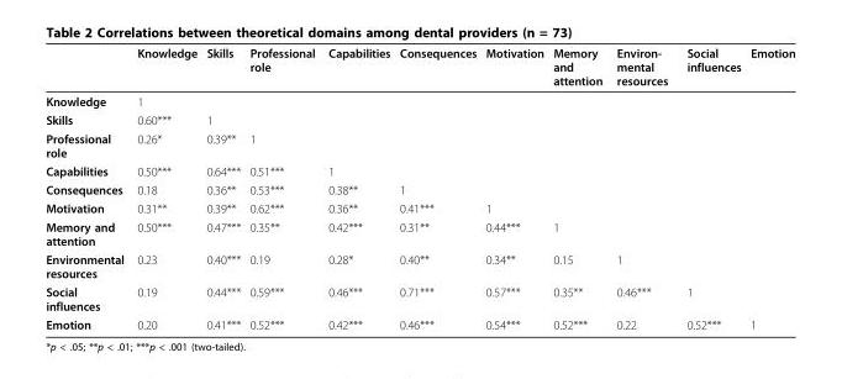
<table><thead><tr><td></td><td>Knowledge</td><td>Skills</td><td>Professional role</td><td>Capabilities</td><td>Consequences</td><td>Motivation</td><td>Memory and attention</td><td>Environ- mental resources</td><td>Social influences</td><td>Emotion</td></tr></thead><tbody><tr><td>Knowledge</td><td>1</td><td></td><td></td><td></td><td></td><td></td><td></td><td></td><td></td><td></td></tr><tr><td>Skills</td><td>0.60***</td><td>1</td><td></td><td></td><td></td><td></td><td></td><td></td><td></td><td></td></tr><tr><td>Professional role</td><td>0.26*</td><td>0.39**</td><td>1</td><td></td><td></td><td></td><td></td><td></td><td></td><td></td></tr><tr><td>Capabilities</td><td>0.50***</td><td>0.64***</td><td>0.51***</td><td>1</td><td></td><td></td><td></td><td></td><td></td><td></td></tr><tr><td>Consequences</td><td>0.18</td><td>0.36**</td><td>0.53***</td><td>0.38**</td><td>1</td><td></td><td></td><td></td><td></td><td></td></tr><tr><td>Motivation</td><td>0.31**</td><td>0.39**</td><td>0.62***</td><td>0.36**</td><td>0.41***</td><td>1</td><td></td><td></td><td></td><td></td></tr><tr><td>Memory and attention</td><td>0.50***</td><td>0.47***</td><td>0.35**</td><td>0.42***</td><td>0.31**</td><td>0.44***</td><td>1</td><td></td><td></td><td></td></tr><tr><td>Environmental resources</td><td>0.23</td><td>0.40***</td><td>0.19</td><td>0.28*</td><td>0.40**</td><td>0.34**</td><td>0.15</td><td>1</td><td></td><td></td></tr><tr><td>Social influences</td><td>0.19</td><td>0.44***</td><td>0.59***</td><td>0.46***</td><td>0.71***</td><td>0.57***</td><td>0.35**</td><td>0.46***</td><td>1</td><td></td></tr><tr><td>Emotion</td><td>0.20</td><td>0.41***</td><td>0.52***</td><td>0.42***</td><td>0.46***</td><td>0.54***</td><td>0.52***</td><td>0.22</td><td>0.52***</td><td>1</td></tr></tbody></table>